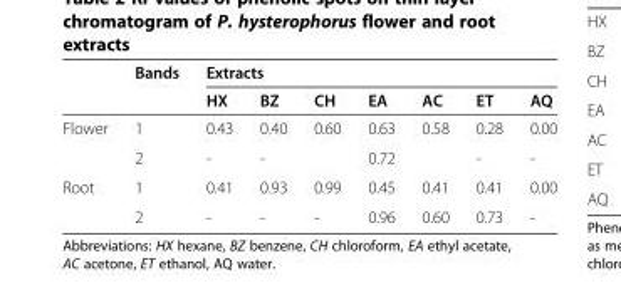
<table><thead><tr><td rowspan="2"></td><td rowspan="2">Bands</td><td colspan="7">Extracts</td></tr><tr><td>HX</td><td>BZ</td><td>CH</td><td>EA</td><td>AC</td><td>ET</td><td>AQ</td></tr></thead><tbody><tr><td rowspan="2">Flower</td><td>1</td><td>0.43</td><td>0.40</td><td>0.60</td><td>0.63</td><td>0.58</td><td>0.28</td><td>0.00</td></tr><tr><td>2</td><td>-</td><td>-</td><td></td><td>0.72</td><td></td><td>-</td><td>-</td></tr><tr><td rowspan="2">Root</td><td>1</td><td>0.41</td><td>0.93</td><td>0.99</td><td>0.45</td><td>0.41</td><td>0.41</td><td>0.00</td></tr><tr><td>2</td><td>-</td><td>-</td><td>-</td><td>0.96</td><td>0.60</td><td>0.73</td><td>-</td></tr></tbody></table>